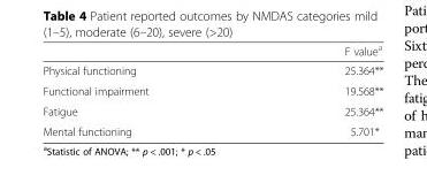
<table><thead><tr><td></td><td>F value<sup>a</sup></td></tr></thead><tbody><tr><td>Physical functioning</td><td>25.364**</td></tr><tr><td>Functional impairment</td><td>19.568**</td></tr><tr><td>Fatigue</td><td>25.364**</td></tr><tr><td>Mental functioning</td><td>5.701*</td></tr></tbody></table>